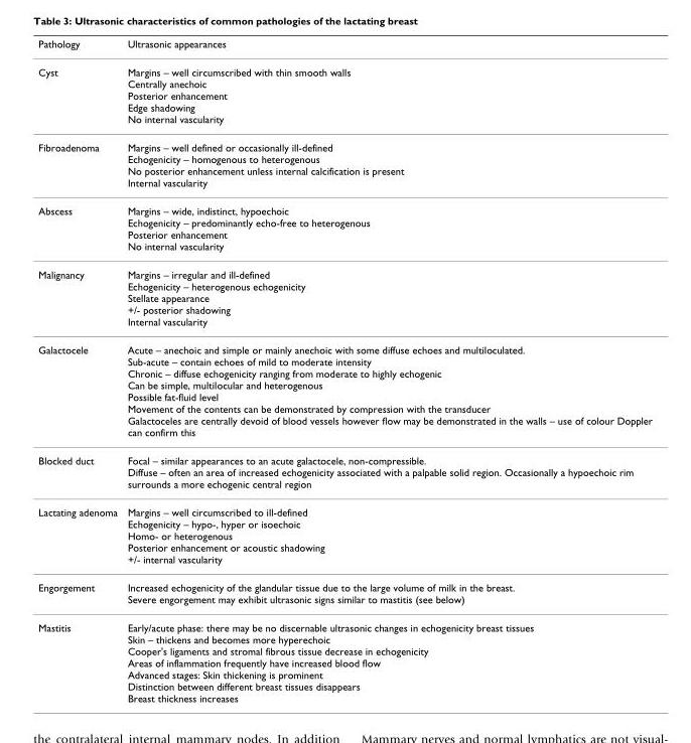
<table><thead><tr><td>Pathology</td><td>Ultrasonic appearances</td></tr></thead><tbody><tr><td>Cyst</td><td>Margins – well circumscribed with thin smooth walls Centrally anechoic Posterior enhancement Edge shadowing No internal vascularity</td></tr><tr><td>Fibroadenoma</td><td>Margins – well defined or occasionally ill-defined Echogenicity – homogenous to heterogenous No posterior enhancement unless internal calcification is present Internal vascularity</td></tr><tr><td>Abscess</td><td>Margins – wide, indistinct, hypoechoic Echogenicity – predominantly echo-free to heterogenous Posterior enhancement No internal vascularity</td></tr><tr><td>Malignancy</td><td>Margins – irregular and ill-defined Echogenicity – heterogenous echogenicity Stellate appearance +/- posterior shadowing Internal vascularity</td></tr><tr><td>Galactocele</td><td>Acute – anechoic and simple or mainly anechoic with some diffuse echoes and multiloculated. Sub-acute – contain echoes of mild to moderate intensity Chronic – diffuse echogenicity ranging from moderate to highly echogenic Can be simple, multilocular and heterogenous Possible fat-fluid level Movement of the contents can be demonstrated by compression with the transducer Galactoceles are centrally devoid of blood vessels however flow may be demonstrated in the walls – use of colour Doppler can confirm this</td></tr><tr><td>Blocked duct</td><td>Focal – similar appearances to an acute galactocele, non-compressible. Diffuse – often an area of increased echogenicity associated with a palpable solid region. Occasionally a hypoechoic rim surrounds a more echogenic central region</td></tr><tr><td>Lactating adenoma</td><td>Margins – well circumscribed to ill-defined Echogenicity – hypo-, hyper or isoechoic Homo- or heterogenous Posterior enhancement or acoustic shadowing +/- internal vascularity</td></tr><tr><td>Engorgement</td><td>Increased echogenicity of the glandular tissue due to the large volume of milk in the breast. Severe engorgement may exhibit ultrasonic signs similar to mastitis (see below)</td></tr><tr><td>Mastitis</td><td>Early/acute phase: there may be no discernable ultrasonic changes in echogenicity breast tissues Skin – thickens and becomes more hyperechoic Cooper&#x27;s ligaments and stromal fibrous tissue decrease in echogenicity Areas of inflammation frequently have increased blood flow Advanced stages: Skin thickening is prominent Distinction between different breast tissues disappears Breast thickness increases</td></tr></tbody></table>